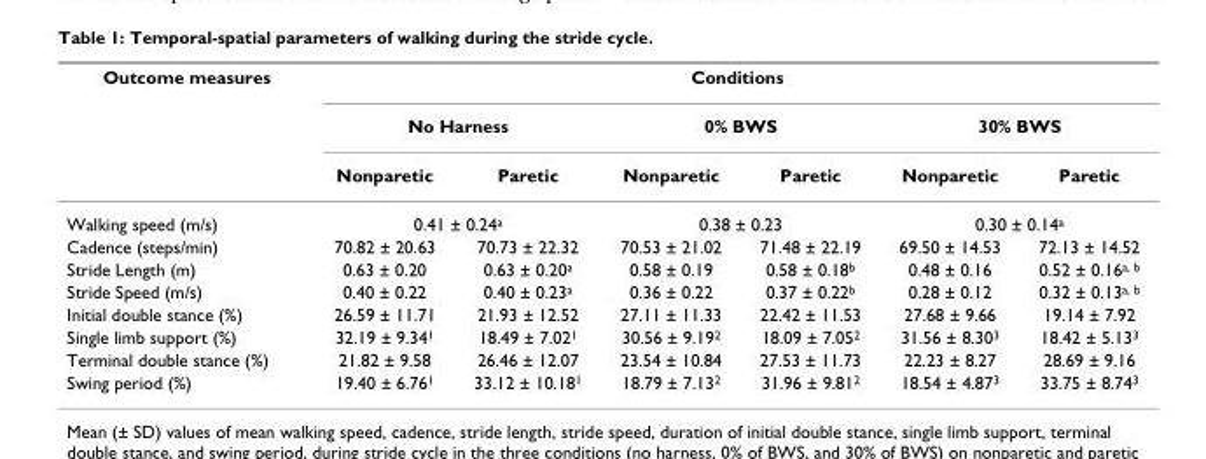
<table><thead><tr><td rowspan="3">Outcome measures</td><td colspan="6">Conditions</td></tr><tr><td colspan="2">No Harness</td><td colspan="2">0% BWS</td><td colspan="2">30% BWS</td></tr><tr><td>Nonparetic</td><td>Paretic</td><td>Nonparetic</td><td>Paretic</td><td>Nonparetic</td><td>Paretic</td></tr></thead><tbody><tr><td>Walking speed (m/s)</td><td colspan="2">0.41 ± 0.24<sup>a</sup></td><td colspan="2">0.38 ± 0.23</td><td colspan="2">0.30 ± 0.14<sup>a</sup></td></tr><tr><td>Cadence (steps/min)</td><td>70.82 ± 20.63</td><td>70.73 ± 22.32</td><td>70.53 ± 21.02</td><td>71.48 ± 22.19</td><td>69.50 ± 14.53</td><td>72.13 ± 14.52</td></tr><tr><td>Stride Length (m)</td><td>0.63 ± 0.20</td><td>0.63 ± 0.20<sup>a</sup></td><td>0.58 ± 0.19</td><td>0.58 ± 0.18<sup>b</sup></td><td>0.48 ± 0.16</td><td>0.52 ± 0.16<sup>a, b</sup></td></tr><tr><td>Stride Speed (m/s)</td><td>0.40 ± 0.22</td><td>0.40 ± 0.23<sup>a</sup></td><td>0.36 ± 0.22</td><td>0.37 ± 0.22<sup>b</sup></td><td>0.28 ± 0.12</td><td>0.32 ± 0.13<sup>a, b</sup></td></tr><tr><td>Initial double stance (%)</td><td>26.59 ± 11.71</td><td>21.93 ± 12.52</td><td>27.11 ± 11.33</td><td>22.42 ± 11.53</td><td>27.68 ± 9.66</td><td>19.14 ± 7.92</td></tr><tr><td>Single limb support (%)</td><td>32.19 ± 9.34<sup>1</sup></td><td>18.49 ± 7.02<sup>1</sup></td><td>30.56 ± 9.19<sup>2</sup></td><td>18.09 ± 7.05<sup>2</sup></td><td>31.56 ± 8.30<sup>3</sup></td><td>18.42 ± 5.13<sup>3</sup></td></tr><tr><td>Terminal double stance (%)</td><td>21.82 ± 9.58</td><td>26.46 ± 12.07</td><td>23.54 ± 10.84</td><td>27.53 ± 11.73</td><td>22.23 ± 8.27</td><td>28.69 ± 9.16</td></tr><tr><td>Swing period (%)</td><td>19.40 ± 6.76<sup>1</sup></td><td>33.12 ± 10.18<sup>1</sup></td><td>18.79 ± 7.13<sup>2</sup></td><td>31.96 ± 9.81<sup>2</sup></td><td>18.54 ± 4.87<sup>3</sup></td><td>33.75 ± 8.74<sup>3</sup></td></tr></tbody></table>